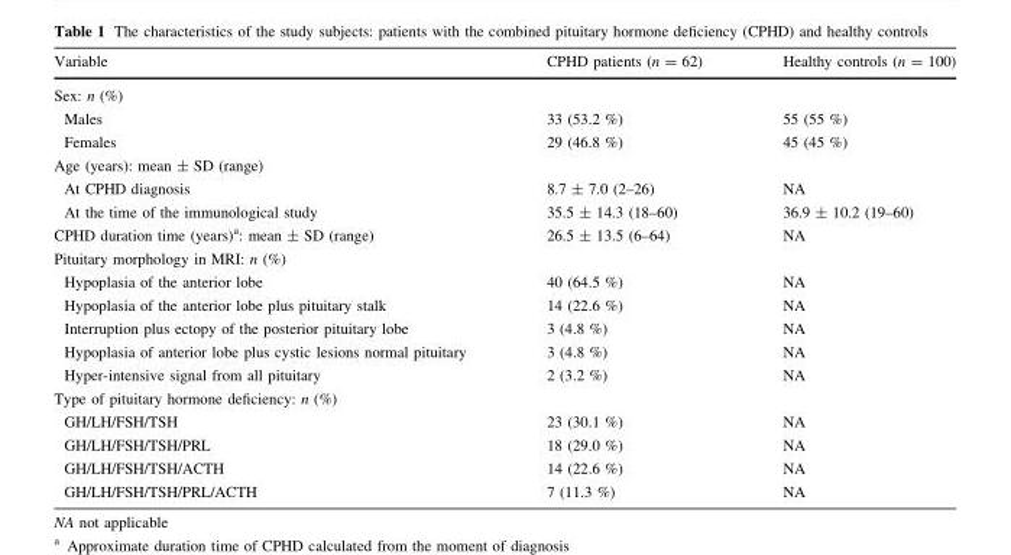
<table><thead><tr><td>Variable</td><td>CPHD patients (n = 62)</td><td>Healthy controls (n = 100)</td></tr></thead><tbody><tr><td colspan="3">Sex: n (%)</td></tr><tr><td>Males</td><td>33 (53.2 %)</td><td>55 (55 %)</td></tr><tr><td>Females</td><td>29 (46.8 %)</td><td>45 (45 %)</td></tr><tr><td colspan="3">Age (years): mean ± SD (range)</td></tr><tr><td>At CPHD diagnosis</td><td>8.7 ± 7.0 (2–26)</td><td>NA</td></tr><tr><td>At the time of the immunological study</td><td>35.5 ± 14.3 (18–60)</td><td>36.9 ± 10.2 (19–60)</td></tr><tr><td>CPHD duration time (years)<sup>a</sup>: mean ± SD (range)</td><td>26.5 ± 13.5 (6–64)</td><td>NA</td></tr><tr><td colspan="3">Pituitary morphology in MRI: n (%)</td></tr><tr><td>Hypoplasia of the anterior lobe</td><td>40 (64.5 %)</td><td>NA</td></tr><tr><td>Hypoplasia of the anterior lobe plus pituitary stalk</td><td>14 (22.6 %)</td><td>NA</td></tr><tr><td>Interruption plus ectopy of the posterior pituitary lobe</td><td>3 (4.8 %)</td><td>NA</td></tr><tr><td>Hypoplasia of anterior lobe plus cystic lesions normal pituitary</td><td>3 (4.8 %)</td><td>NA</td></tr><tr><td>Hyper-intensive signal from all pituitary</td><td>2 (3.2 %)</td><td>NA</td></tr><tr><td colspan="3">Type of pituitary hormone deficiency: n (%)</td></tr><tr><td>GH/LH/FSH/TSH</td><td>23 (30.1 %)</td><td>NA</td></tr><tr><td>GH/LH/FSH/TSH/PRL</td><td>18 (29.0 %)</td><td>NA</td></tr><tr><td>GH/LH/FSH/TSH/ACTH</td><td>14 (22.6 %)</td><td>NA</td></tr><tr><td>GH/LH/FSH/TSH/PRL/ACTH</td><td>7 (11.3 %)</td><td>NA</td></tr></tbody></table>